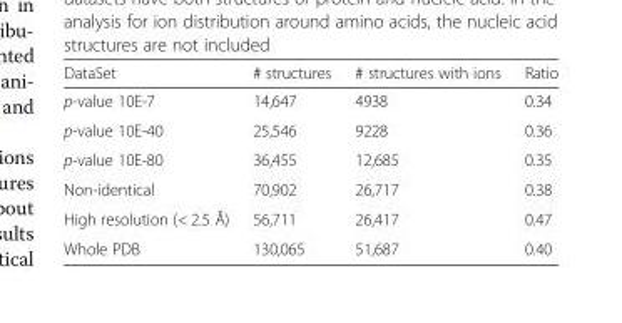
<table><thead><tr><td>DataSet</td><td># structures</td><td># structures with ions</td><td>Ratio</td></tr></thead><tbody><tr><td>p-value 10E-7</td><td>14,647</td><td>4938</td><td>0.34</td></tr><tr><td>p-value 10E-40</td><td>25,546</td><td>9228</td><td>0.36</td></tr><tr><td>p-value 10E-80</td><td>36,455</td><td>12,685</td><td>0.35</td></tr><tr><td>Non-identical</td><td>70,902</td><td>26,717</td><td>0.38</td></tr><tr><td>High resolution (&lt; 2.5 Å)</td><td>56,711</td><td>26,417</td><td>0.47</td></tr><tr><td>Whole PDB</td><td>130,065</td><td>51,687</td><td>0.40</td></tr></tbody></table>